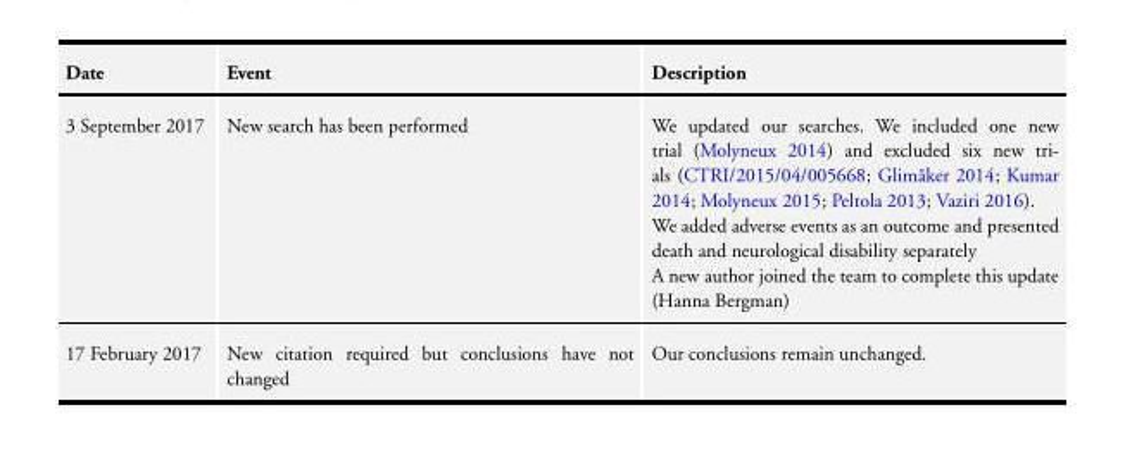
<table><thead><tr><td>Date</td><td>Event</td><td>Description</td></tr></thead><tbody><tr><td>3 September 2017</td><td>New search has been performed</td><td>We updated our searches. We included one new trial (Molyneux 2014) and excluded six new tri- als (CTRI/2015/04/005668; Glimåker 2014; Kumar 2014; Molyneux 2015; Peltola 2013; Vaziri 2016). We added adverse events as an outcome and presented death and neurological disability separately A new author joined the team to complete this update (Hanna Bergman)</td></tr><tr><td>17 February 2017</td><td>New citation required but conclusions have not changed</td><td>Our conclusions remain unchanged.</td></tr></tbody></table>